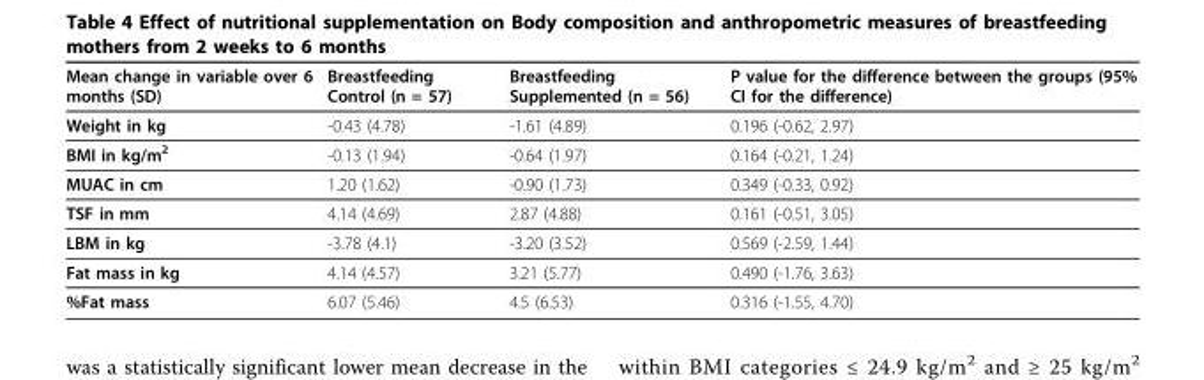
<table><thead><tr><td>Mean change in variable over 6 months (SD)</td><td>Breastfeeding Control (n = 57)</td><td>Breastfeeding Supplemented (n = 56)</td><td>P value for the difference between the groups (95% CI for the difference)</td></tr></thead><tbody><tr><td>Weight in kg</td><td>-0.43 (4.78)</td><td>-1.61 (4.89)</td><td>0.196 (-0.62, 2.97)</td></tr><tr><td>BMI in kg/m<sup>2</sup></td><td>-0.13 (1.94)</td><td>-0.64 (1.97)</td><td>0.164 (-0.21, 1.24)</td></tr><tr><td>MUAC in cm</td><td>1.20 (1.62)</td><td>-0.90 (1.73)</td><td>0.349 (-0.33, 0.92)</td></tr><tr><td>TSF in mm</td><td>4.14 (4.69)</td><td>2.87 (4.88)</td><td>0.161 (-0.51, 3.05)</td></tr><tr><td>LBM in kg</td><td>-3.78 (4.1)</td><td>-3.20 (3.52)</td><td>0.569 (-2.59, 1.44)</td></tr><tr><td>Fat mass in kg</td><td>4.14 (4.57)</td><td>3.21 (5.77)</td><td>0.490 (-1.76, 3.63)</td></tr><tr><td>%Fat mass</td><td>6.07 (5.46)</td><td>4.5 (6.53)</td><td>0.316 (-1.55, 4.70)</td></tr></tbody></table>